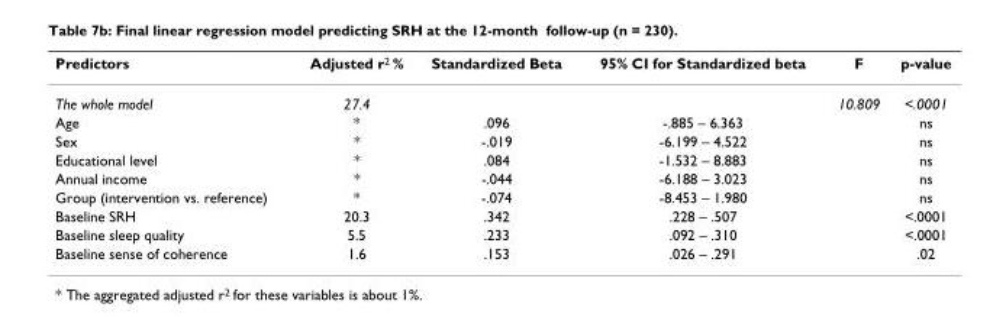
<table><thead><tr><td>Predictors</td><td>Adjusted r<sup>2</sup> %</td><td>Standardized Beta</td><td>95% CI for Standardized beta</td><td>F</td><td>p-value</td></tr></thead><tbody><tr><td>The whole model</td><td>27.4</td><td></td><td></td><td>10.809</td><td>&lt;.0001</td></tr><tr><td>Age</td><td>*</td><td>.096</td><td>-.885 – 6.363</td><td></td><td>ns</td></tr><tr><td>Sex</td><td>*</td><td>-.019</td><td>-6.199 – 4.522</td><td></td><td>ns</td></tr><tr><td>Educational level</td><td>*</td><td>.084</td><td>-1.532 – 8.883</td><td></td><td>ns</td></tr><tr><td>Annual income</td><td>*</td><td>-.044</td><td>-6.188 – 3.023</td><td></td><td>ns</td></tr><tr><td>Group (intervention vs. reference)</td><td>*</td><td>-.074</td><td>-8.453 – 1.980</td><td></td><td>ns</td></tr><tr><td>Baseline SRH</td><td>20.3</td><td>.342</td><td>.228 – .507</td><td></td><td>&lt;.0001</td></tr><tr><td>Baseline sleep quality</td><td>5.5</td><td>.233</td><td>.092 – .310</td><td></td><td>&lt;.0001</td></tr><tr><td>Baseline sense of coherence</td><td>1.6</td><td>.153</td><td>.026 – .291</td><td></td><td>.02</td></tr></tbody></table>